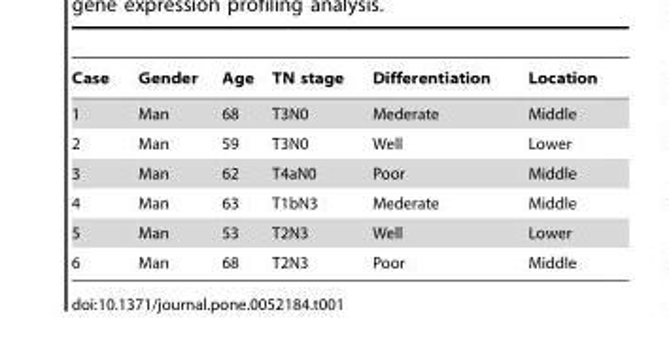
<table><thead><tr><td>Case</td><td>Gender</td><td>Age</td><td>TN stage</td><td>Differentiation</td><td>Location</td></tr></thead><tbody><tr><td>1</td><td>Man</td><td>68</td><td>T3N0</td><td>Mederate</td><td>Middle</td></tr><tr><td>2</td><td>Man</td><td>59</td><td>T3N0</td><td>Well</td><td>Lower</td></tr><tr><td>3</td><td>Man</td><td>62</td><td>T4aN0</td><td>Poor</td><td>Middle</td></tr><tr><td>4</td><td>Man</td><td>63</td><td>T1bN3</td><td>Mederate</td><td>Middle</td></tr><tr><td>5</td><td>Man</td><td>53</td><td>T2N3</td><td>Well</td><td>Lower</td></tr><tr><td>6</td><td>Man</td><td>68</td><td>T2N3</td><td>Poor</td><td>Middle</td></tr></tbody></table>